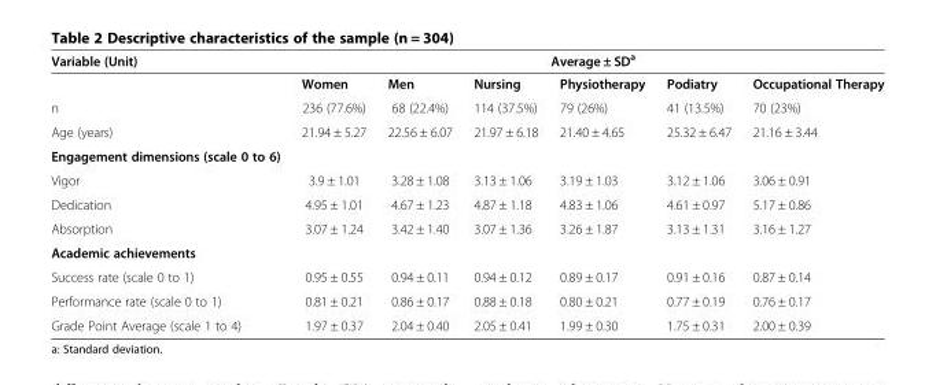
<table><thead><tr><td rowspan="2">Variable (Unit)</td><td colspan="6">Average ± SD<sup>a</sup></td></tr><tr><td>Women</td><td>Men</td><td>Nursing</td><td>Physiotherapy</td><td>Podiatry</td><td>Occupational Therapy</td></tr></thead><tbody><tr><td>n</td><td>236 (77.6%)</td><td>68 (22.4%)</td><td>114 (37.5%)</td><td>79 (26%)</td><td>41 (13.5%)</td><td>70 (23%)</td></tr><tr><td>Age (years)</td><td>21.94 ± 5.27</td><td>22.56 ± 6.07</td><td>21.97 ± 6.18</td><td>21.40 ± 4.65</td><td>25.32 ± 6.47</td><td>21.16 ± 3.44</td></tr><tr><td colspan="7">Engagement dimensions (scale 0 to 6)</td></tr><tr><td>Vigor</td><td>3.9 ± 1.01</td><td>3.28 ± 1.08</td><td>3.13 ± 1.06</td><td>3.19 ± 1.03</td><td>3.12 ± 1.06</td><td>3.06 ± 0.91</td></tr><tr><td>Dedication</td><td>4.95 ± 1.01</td><td>4.67 ± 1.23</td><td>4.87 ± 1.18</td><td>4.83 ± 1.06</td><td>4.61 ± 0.97</td><td>5.17 ± 0.86</td></tr><tr><td>Absorption</td><td>3.07 ± 1.24</td><td>3.42 ± 1.40</td><td>3.07 ± 1.36</td><td>3.26 ± 1.87</td><td>3.13 ± 1.31</td><td>3.16 ± 1.27</td></tr><tr><td colspan="7">Academic achievements</td></tr><tr><td>Success rate (scale 0 to 1)</td><td>0.95 ± 0.55</td><td>0.94 ± 0.11</td><td>0.94 ± 0.12</td><td>0.89 ± 0.17</td><td>0.91 ± 0.16</td><td>0.87 ± 0.14</td></tr><tr><td>Performance rate (scale 0 to 1)</td><td>0.81 ± 0.21</td><td>0.86 ± 0.17</td><td>0.88 ± 0.18</td><td>0.80 ± 0.21</td><td>0.77 ± 0.19</td><td>0.76 ± 0.17</td></tr><tr><td>Grade Point Average (scale 1 to 4)</td><td>1.97 ± 0.37</td><td>2.04 ± 0.40</td><td>2.05 ± 0.41</td><td>1.99 ± 0.30</td><td>1.75 ± 0.31</td><td>2.00 ± 0.39</td></tr></tbody></table>